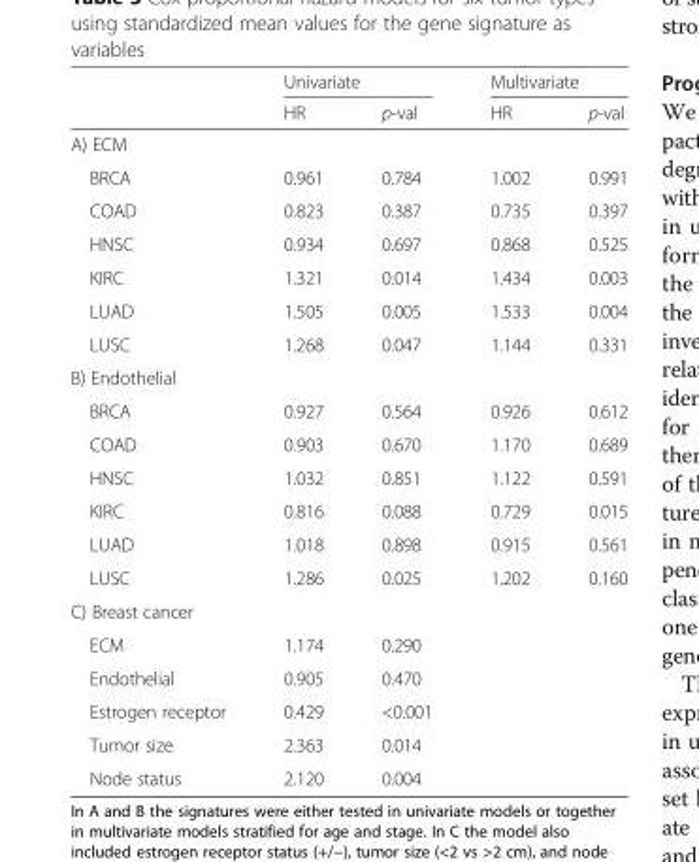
<table><thead><tr><td rowspan="2"></td><td colspan="2">Univariate</td><td colspan="2">Multivariate</td></tr><tr><td>HR</td><td>p-val</td><td>HR</td><td>p-val</td></tr></thead><tbody><tr><td colspan="5">A) ECM</td></tr><tr><td>BRCA</td><td>0.961</td><td>0.784</td><td>1.002</td><td>0.991</td></tr><tr><td>COAD</td><td>0.823</td><td>0.387</td><td>0.735</td><td>0.397</td></tr><tr><td>HNSC</td><td>0.934</td><td>0.697</td><td>0.868</td><td>0.525</td></tr><tr><td>KIRC</td><td>1.321</td><td>0.014</td><td>1.434</td><td>0.003</td></tr><tr><td>LUAD</td><td>1.505</td><td>0.005</td><td>1.533</td><td>0.004</td></tr><tr><td>LUSC</td><td>1.268</td><td>0.047</td><td>1.144</td><td>0.331</td></tr><tr><td colspan="5">B) Endothelial</td></tr><tr><td>BRCA</td><td>0.927</td><td>0.564</td><td>0.926</td><td>0.612</td></tr><tr><td>COAD</td><td>0.903</td><td>0.670</td><td>1.170</td><td>0.689</td></tr><tr><td>HNSC</td><td>1.032</td><td>0.851</td><td>1.122</td><td>0.591</td></tr><tr><td>KIRC</td><td>0.816</td><td>0.088</td><td>0.729</td><td>0.015</td></tr><tr><td>LUAD</td><td>1.018</td><td>0.898</td><td>0.915</td><td>0.561</td></tr><tr><td>LUSC</td><td>1.286</td><td>0.025</td><td>1.202</td><td>0.160</td></tr><tr><td colspan="5">C) Breast cancer</td></tr><tr><td>ECM</td><td>1.174</td><td>0.290</td><td></td><td></td></tr><tr><td>Endothelial</td><td>0.905</td><td>0.470</td><td></td><td></td></tr><tr><td>Estrogen receptor</td><td>0.429</td><td>&lt;0.001</td><td></td><td></td></tr><tr><td>Tumor size</td><td>2.363</td><td>0.014</td><td></td><td></td></tr><tr><td>Node status</td><td>2.120</td><td>0.004</td><td></td><td></td></tr></tbody></table>